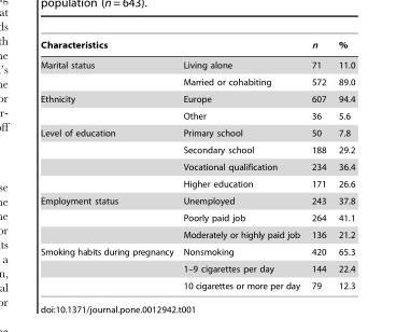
<table><thead><tr><td>Characteristics</td><td></td><td>n</td><td>%</td></tr></thead><tbody><tr><td rowspan="2">Marital status</td><td>Living alone</td><td>71</td><td>11.0</td></tr><tr><td>Married or cohabiting</td><td>572</td><td>89.0</td></tr><tr><td rowspan="2">Ethnicity</td><td>Europe</td><td>607</td><td>94.4</td></tr><tr><td>Other</td><td>36</td><td>5.6</td></tr><tr><td rowspan="4">Level of education</td><td>Primary school</td><td>50</td><td>7.8</td></tr><tr><td>Secondary school</td><td>188</td><td>29.2</td></tr><tr><td>Vocational qualification</td><td>234</td><td>36.4</td></tr><tr><td>Higher education</td><td>171</td><td>26.6</td></tr><tr><td rowspan="3">Employment status</td><td>Unemployed</td><td>243</td><td>37.8</td></tr><tr><td>Poorly paid job</td><td>264</td><td>41.1</td></tr><tr><td>Moderately or highly paid job</td><td>136</td><td>21.2</td></tr><tr><td rowspan="3">Smoking habits during pregnancy</td><td>Nonsmoking</td><td>420</td><td>65.3</td></tr><tr><td>1–9 cigarettes per day</td><td>144</td><td>22.4</td></tr><tr><td>10 cigarettes or more per day</td><td>79</td><td>12.3</td></tr></tbody></table>